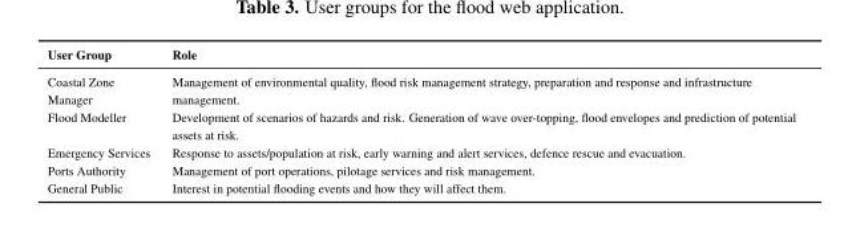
<table><thead><tr><td>User Group</td><td>Role</td></tr></thead><tbody><tr><td>Coastal Zone Manager</td><td>Management of environmental quality, flood risk management strategy, preparation and response and infrastructure management.</td></tr><tr><td>Flood Modeller</td><td>Development of scenarios of hazards and risk. Generation of wave over-topping, flood envelopes and prediction of potential assets at risk.</td></tr><tr><td>Emergency Services</td><td>Response to assets/population at risk, early warning and alert services, defence rescue and evacuation.</td></tr><tr><td>Ports Authority</td><td>Management of port operations, pilotage services and risk management.</td></tr><tr><td>General Public</td><td>Interest in potential flooding events and how they will affect them.</td></tr></tbody></table>